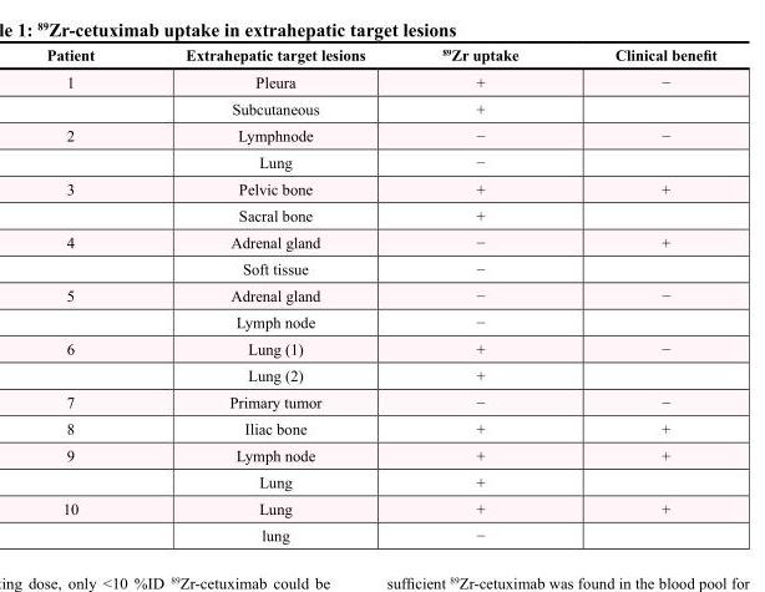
<table><thead><tr><td>Patient</td><td>Extrahepatic target lesions</td><td><sup>89</sup>Zr uptake</td><td>Clinical benefit</td></tr></thead><tbody><tr><td rowspan="2">1</td><td>Pleura</td><td>+</td><td>−</td></tr><tr><td>Subcutaneous</td><td>+</td><td></td></tr><tr><td rowspan="2">2</td><td>Lymphnode</td><td>−</td><td>−</td></tr><tr><td>Lung</td><td>−</td><td></td></tr><tr><td rowspan="2">3</td><td>Pelvic bone</td><td>+</td><td>+</td></tr><tr><td>Sacral bone</td><td>+</td><td></td></tr><tr><td rowspan="2">4</td><td>Adrenal gland</td><td>−</td><td>+</td></tr><tr><td>Soft tissue</td><td>−</td><td></td></tr><tr><td rowspan="2">5</td><td>Adrenal gland</td><td>−</td><td>−</td></tr><tr><td>Lymph node</td><td>−</td><td></td></tr><tr><td rowspan="2">6</td><td>Lung (1)</td><td>+</td><td>−</td></tr><tr><td>Lung (2)</td><td>+</td><td></td></tr><tr><td>7</td><td>Primary tumor</td><td>−</td><td>−</td></tr><tr><td>8</td><td>Iliac bone</td><td>+</td><td>+</td></tr><tr><td rowspan="2">9</td><td>Lymph node</td><td>+</td><td>+</td></tr><tr><td>Lung</td><td>+</td><td></td></tr><tr><td rowspan="2">10</td><td>Lung</td><td>+</td><td>+</td></tr><tr><td>lung</td><td>−</td><td></td></tr></tbody></table>